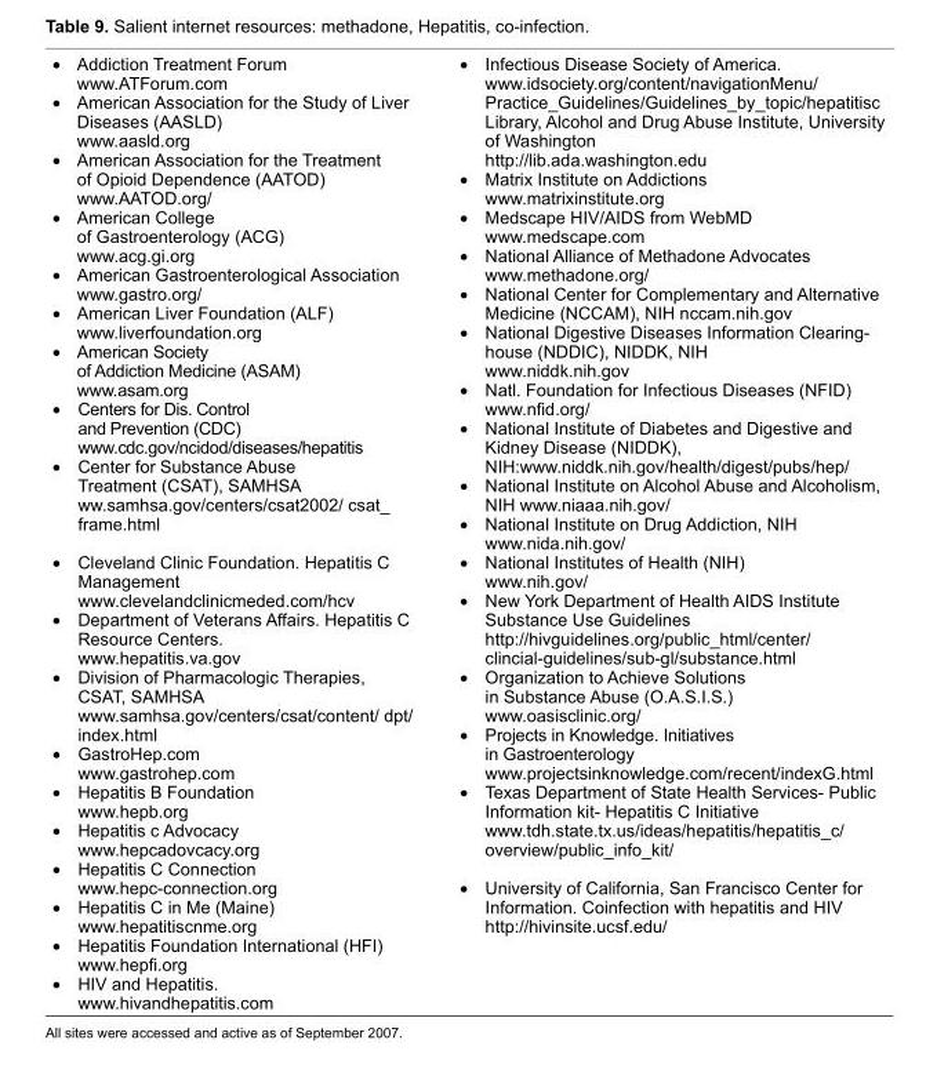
<table><tbody><tr><td>• Addiction Treatment Forum www.ATForum.com • American Association for the Study of Liver Diseases (AASLD) www.aasld.org • American Association for the Treatment of Opioid Dependence (AATOD) www.AATOD.org/ • American College of Gastroenterology (ACG) www.acg.gi.org • American Gastroenterological Association www.gastro.org/ • American Liver Foundation (ALF) www.liverfoundation.org • American Society of Addiction Medicine (ASAM) www.asam.org • Centers for Dis. Control and Prevention (CDC) www.cdc.gov/ncidod/diseases/hepatitis • Center for Substance Abuse Treatment (CSAT), SAMHSA ww.samhsa.gov/centers/csat2002/ csat_ frame.html • Cleveland Clinic Foundation. Hepatitis C Management www.clevelandclinicmeded.com/hcv • Department of Veterans Affairs. Hepatitis C Resource Centers. www.hepatitis.va.gov • Division of Pharmacologic Therapies, CSAT, SAMHSA www.samhsa.gov/centers/csat/content/ dpt/ index.html • GastroHep.com www.gastrohep.com • Hepatitis B Foundation www.hepb.org • Hepatitis c Advocacy www.hepcadovcacy.org • Hepatitis C Connection www.hepc-connection.org • Hepatitis C in Me (Maine) www.hepatitiscnme.org • Hepatitis Foundation International (HFI) www.hepfi .org • HIV and Hepatitis. www.hivandhepatitis.com</td><td>• Infectious Disease Society of America. www.idsociety.org/content/navigationMenu/ Practice_Guidelines/Guidelines_by_topic/hepatitisc Library, Alcohol and Drug Abuse Institute, University of Washington http://lib.ada.washington.edu • Matrix Institute on Addictions www.matrixinstitute.org • Medscape HIV/AIDS from WebMD www.medscape.com • National Alliance of Methadone Advocates www.methadone.org/ • National Center for Complementary and Alternative Medicine (NCCAM), NIH nccam.nih.gov • National Digestive Diseases Information Clearing- house (NDDIC), NIDDK, NIH www.niddk.nih.gov • Natl. Foundation for Infectious Diseases (NFID) www.nfi d.org/ • National Institute of Diabetes and Digestive and Kidney Disease (NIDDK), NIH:www.niddk.nih.gov/health/digest/pubs/hep/ • National Institute on Alcohol Abuse and Alcoholism, NIH www.niaaa.nih.gov/ • National Institute on Drug Addiction, NIH www.nida.nih.gov/ • National Institutes of Health (NIH) www.nih.gov/ • New York Department of Health AIDS Institute Substance Use Guidelines http://hivguidelines.org/public_html/center/ clincial-guidelines/sub-gl/substance.html • Organization to Achieve Solutions in Substance Abuse (O.A.S.I.S.) www.oasisclinic.org/ • Projects in Knowledge. Initiatives in Gastroenterology www.projectsinknowledge.com/recent/indexG.html • Texas Department of State Health Services- Public Information kit- Hepatitis C Initiative www.tdh.state.tx.us/ideas/hepatitis/hepatitis_c/ overview/public_info_kit/ • University of California, San Francisco Center for Information. Coinfection with hepatitis and HIV http://hivinsite.ucsf.edu/</td></tr></tbody></table>